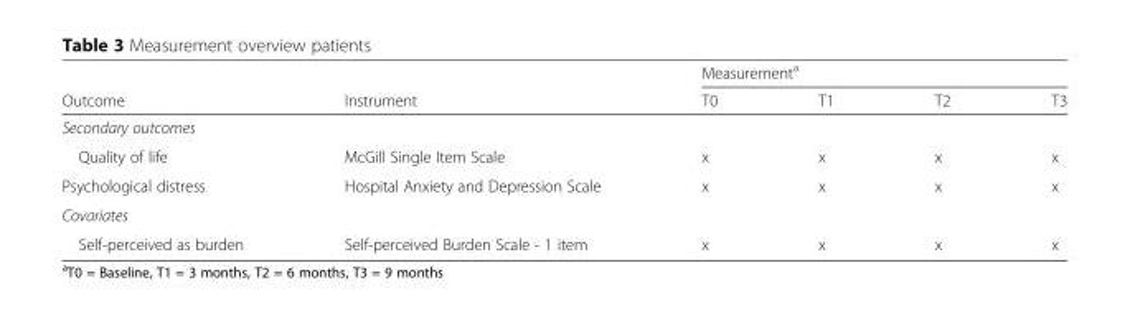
<table><thead><tr><td rowspan="2">Outcome</td><td rowspan="2">Instrument</td><td colspan="4">Measurement<sup>a</sup></td></tr><tr><td>T0</td><td>T1</td><td>T2</td><td>T3</td></tr></thead><tbody><tr><td colspan="6">Secondary outcomes</td></tr><tr><td>Quality of life</td><td>McGill Single Item Scale</td><td>x</td><td>x</td><td>x</td><td>x</td></tr><tr><td>Psychological distress</td><td>Hospital Anxiety and Depression Scale</td><td>x</td><td>x</td><td>x</td><td>x</td></tr><tr><td colspan="6">Covariates</td></tr><tr><td>Self-perceived as burden</td><td>Self-perceived Burden Scale - 1 item</td><td>x</td><td>x</td><td>x</td><td>x</td></tr></tbody></table>